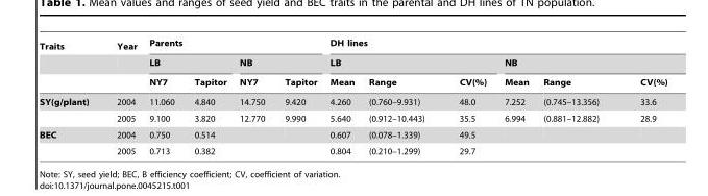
<table><thead><tr><td rowspan="3">Traits</td><td rowspan="3">Year</td><td colspan="4">Parents</td><td colspan="6">DH lines</td></tr><tr><td colspan="2">LB</td><td colspan="2">NB</td><td colspan="3">LB</td><td colspan="3">NB</td></tr><tr><td>NY7</td><td>Tapitor</td><td>NY7</td><td>Tapitor</td><td>Mean</td><td>Range</td><td>CV(%)</td><td>Mean</td><td>Range</td><td>CV(%)</td></tr></thead><tbody><tr><td rowspan="2">SY(g/plant)</td><td>2004</td><td>11.060</td><td>4.840</td><td>14.750</td><td>9.420</td><td>4.260</td><td>(0.760–9.931)</td><td>48.0</td><td>7.252</td><td>(0.745–13.356)</td><td>33.6</td></tr><tr><td>2005</td><td>9.100</td><td>3.820</td><td>12.770</td><td>9.990</td><td>5.640</td><td>(0.912–10.443)</td><td>35.5</td><td>6.994</td><td>(0.881–12.882)</td><td>28.9</td></tr><tr><td rowspan="2">BEC</td><td>2004</td><td>0.750</td><td>0.514</td><td></td><td></td><td>0.607</td><td>(0.078–1.339)</td><td>49.5</td><td></td><td></td><td></td></tr><tr><td>2005</td><td>0.713</td><td>0.382</td><td></td><td></td><td>0.804</td><td>(0.210–1.299)</td><td>29.7</td><td></td><td></td><td></td></tr></tbody></table>